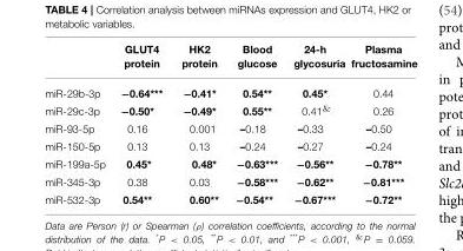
<table><thead><tr><td></td><td>GLUT4 protein</td><td>HK2 protein</td><td>Blood glucose</td><td>24-h glycosuria</td><td>Plasma fructosamine</td></tr></thead><tbody><tr><td>miR-29b-3p</td><td>−0.64***</td><td>−0.41*</td><td>0.54**</td><td>0.45*</td><td>0.44</td></tr><tr><td>miR-29c-3p</td><td>−0.50*</td><td>−0.49*</td><td>0.55**</td><td>0.41<sup>&amp;</sup></td><td>0.26</td></tr><tr><td>miR-93-5p</td><td>0.16</td><td>0.001</td><td>–0.18</td><td>–0.33</td><td>–0.50</td></tr><tr><td>miR-150-5p</td><td>0.13</td><td>0.13</td><td>–0.24</td><td>–0.27</td><td>–0.24</td></tr><tr><td>miR-199a-5p</td><td>0.45*</td><td>0.48*</td><td>−0.63***</td><td>−0.56**</td><td>−0.78**</td></tr><tr><td>miR-345-3p</td><td>0.38</td><td>0.03</td><td>−0.58***</td><td>−0.62**</td><td>−0.81***</td></tr><tr><td>miR-532-3p</td><td>0.54**</td><td>0.60**</td><td>−0.54**</td><td>−0.67***</td><td>−0.72**</td></tr></tbody></table>